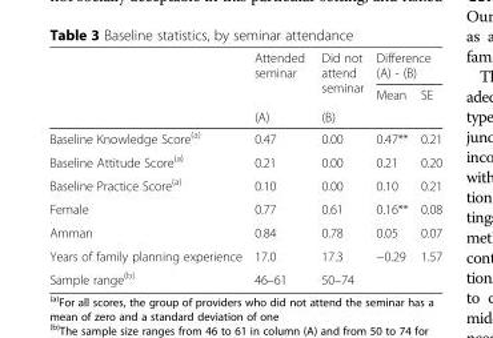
<table><thead><tr><td rowspan="3"></td><td rowspan="3">Attended seminar (A)</td><td rowspan="3">Did not attend seminar (B)</td><td colspan="2">Difference (A) - (B)</td></tr><tr><td rowspan="2">Mean</td><td rowspan="2">SE</td></tr><tr></tr></thead><tbody><tr><td>Baseline Knowledge Score<sup>(a)</sup></td><td>0.47</td><td>0.00</td><td>0.47**</td><td>0.21</td></tr><tr><td>Baseline Attitude Score<sup>(a)</sup></td><td>0.21</td><td>0.00</td><td>0.21</td><td>0.20</td></tr><tr><td>Baseline Practice Score<sup>(a)</sup></td><td>0.10</td><td>0.00</td><td>0.10</td><td>0.21</td></tr><tr><td>Female</td><td>0.77</td><td>0.61</td><td>0.16**</td><td>0.08</td></tr><tr><td>Amman</td><td>0.84</td><td>0.78</td><td>0.05</td><td>0.07</td></tr><tr><td>Years of family planning experience</td><td>17.0</td><td>17.3</td><td>−0.29</td><td>1.57</td></tr><tr><td>Sample range<sup>(b)</sup></td><td>46–61</td><td>50–74</td><td></td><td></td></tr></tbody></table>